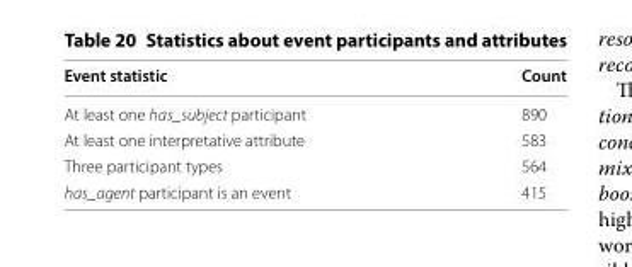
<table><thead><tr><td>Event statistic</td><td>Count</td></tr></thead><tbody><tr><td>At least one has_subject participant</td><td>890</td></tr><tr><td>At least one interpretative attribute</td><td>583</td></tr><tr><td>Three participant types</td><td>564</td></tr><tr><td>has_agent participant is an event</td><td>415</td></tr></tbody></table>